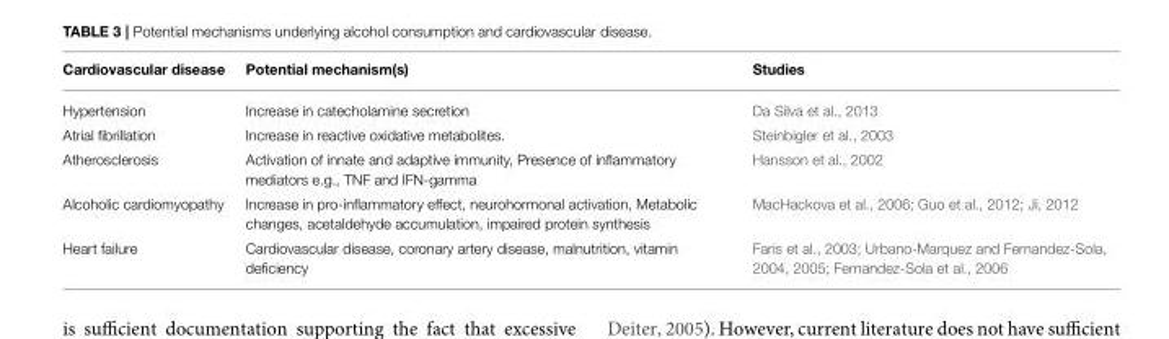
<table><thead><tr><td>Cardiovascular disease</td><td>Potential mechanism(s)</td><td>Studies</td></tr></thead><tbody><tr><td>Hypertension</td><td>Increase in catecholamine secretion</td><td>Da Silva et al., 2013</td></tr><tr><td>Atrial fibrillation</td><td>Increase in reactive oxidative metabolites.</td><td>Steinbigler et al., 2003</td></tr><tr><td>Atherosclerosis</td><td>Activation of innate and adaptive immunity, Presence of inflammatory mediators e.g., TNF and IFN-gamma</td><td>Hansson et al., 2002</td></tr><tr><td>Alcoholic cardiomyopathy</td><td>Increase in pro-inflammatory effect, neurohormonal activation, Metabolic changes, acetaldehyde accumulation, impaired protein synthesis</td><td>MacHackova et al., 2006; Guo et al., 2012; Ji, 2012</td></tr><tr><td>Heart failure</td><td>Cardiovascular disease, coronary artery disease, malnutrition, vitamin deficiency</td><td>Faris et al., 2003; Urbano-Marquez and Fernandez-Sola, 2004, 2005; Fernandez-Sola et al., 2006</td></tr></tbody></table>